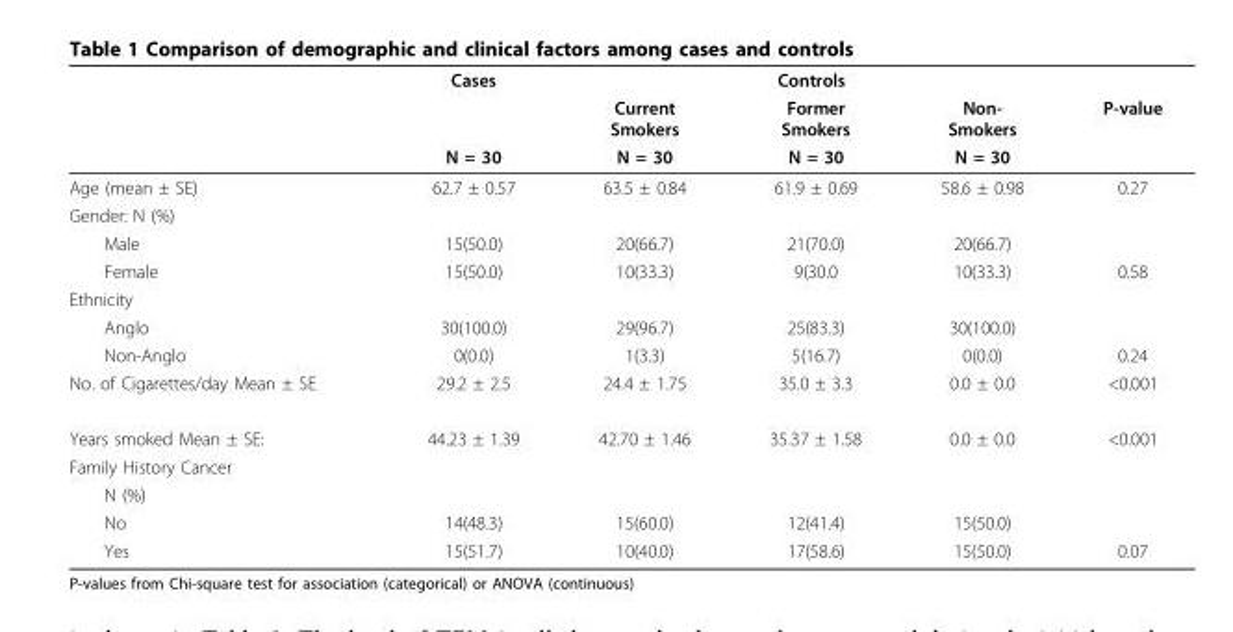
<table><thead><tr><td rowspan="3"></td><td rowspan="3">Cases N = 30</td><td colspan="3">Controls</td><td rowspan="3">P-value</td></tr><tr><td rowspan="2">Current Smokers N = 30</td><td rowspan="2">Former Smokers N = 30</td><td rowspan="2">Non- Smokers N = 30</td></tr><tr></tr></thead><tbody><tr><td>Age (mean ± SE)</td><td>62.7 ± 0.57</td><td>63.5 ± 0.84</td><td>61.9 ± 0.69</td><td>58.6 ± 0.98</td><td>0.27</td></tr><tr><td colspan="6">Gender: N (%)</td></tr><tr><td>Male</td><td>15(50.0)</td><td>20(66.7)</td><td>21(70.0)</td><td>20(66.7)</td><td></td></tr><tr><td>Female</td><td>15(50.0)</td><td>10(33.3)</td><td>9(30.0</td><td>10(33.3)</td><td>0.58</td></tr><tr><td colspan="6">Ethnicity</td></tr><tr><td>Anglo</td><td>30(100.0)</td><td>29(96.7)</td><td>25(83.3)</td><td>30(100.0)</td><td></td></tr><tr><td>Non-Anglo</td><td>0(0.0)</td><td>1(3.3)</td><td>5(16.7)</td><td>0(0.0)</td><td>0.24</td></tr><tr><td>No. of Cigarettes/day Mean ± SE</td><td>29.2 ± 2.5</td><td>24.4 ± 1.75</td><td>35.0 ± 3.3</td><td>0.0 ± 0.0</td><td>&lt;0.001</td></tr><tr><td>Years smoked Mean ± SE:</td><td>44.23 ± 1.39</td><td>42.70 ± 1.46</td><td>35.37 ± 1.58</td><td>0.0 ± 0.0</td><td>&lt;0.001</td></tr><tr><td colspan="6">Family History Cancer</td></tr><tr><td colspan="6">N (%)</td></tr><tr><td>No</td><td>14(48.3)</td><td>15(60.0)</td><td>12(41.4)</td><td>15(50.0)</td><td></td></tr><tr><td>Yes</td><td>15(51.7)</td><td>10(40.0)</td><td>17(58.6)</td><td>15(50.0)</td><td>0.07</td></tr></tbody></table>